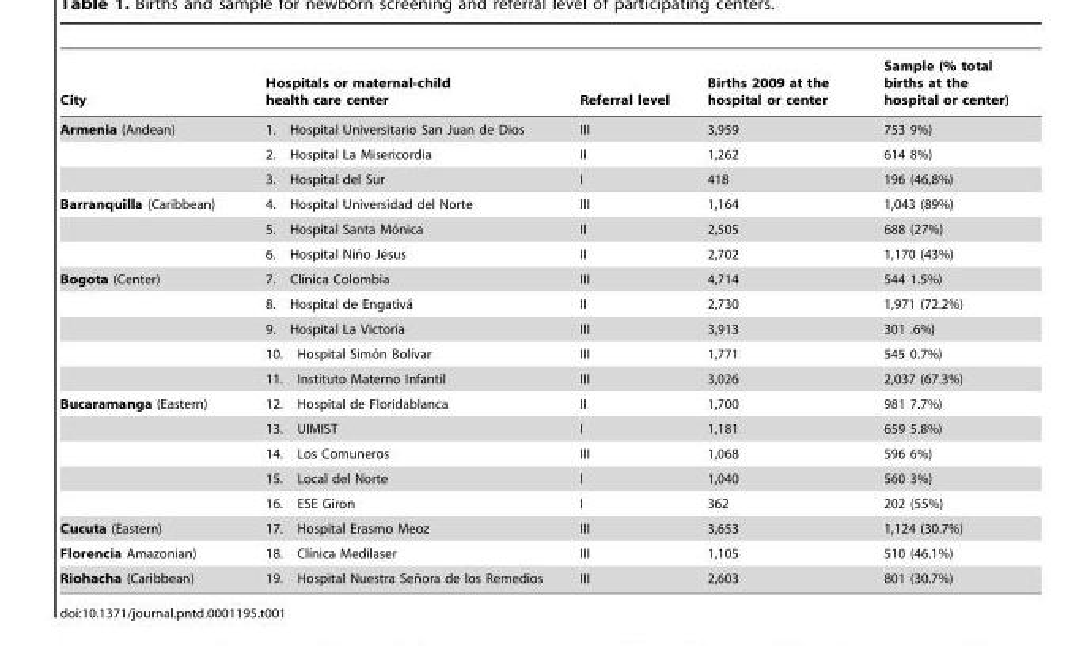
<table><thead><tr><td>City</td><td>Hospitals or maternal-child health care center</td><td>Referral level</td><td>Births 2009 at the hospital or center</td><td>Sample (% total births at the hospital or center)</td></tr></thead><tbody><tr><td rowspan="3">Armenia (Andean)</td><td>1. Hospital Universitario San Juan de Dios</td><td>III</td><td>3,959</td><td>753 9%)</td></tr><tr><td>2. Hospital La Misericordia</td><td>II</td><td>1,262</td><td>614 8%)</td></tr><tr><td>3. Hospital del Sur</td><td>I</td><td>418</td><td>196 (46,8%)</td></tr><tr><td rowspan="3">Barranquilla (Caribbean)</td><td>4. Hospital Universidad del Norte</td><td>III</td><td>1,164</td><td>1,043 (89%)</td></tr><tr><td>5. Hospital Santa Mo´nica</td><td>II</td><td>2,505</td><td>688 (27%)</td></tr><tr><td>6. Hospital Nin˜o Je´sus</td><td>II</td><td>2,702</td><td>1,170 (43%)</td></tr><tr><td rowspan="5">Bogota (Center)</td><td>7. Clı´nica Colombia</td><td>III</td><td>4,714</td><td>544 1.5%)</td></tr><tr><td>8. Hospital de Engativa´</td><td>II</td><td>2,730</td><td>1,971 (72.2%)</td></tr><tr><td>9. Hospital La Victoria</td><td>III</td><td>3,913</td><td>301 .6%)</td></tr><tr><td>10. Hospital Simo´n Bolı´var</td><td>III</td><td>1,771</td><td>545 0.7%)</td></tr><tr><td>11. Instituto Materno Infantil</td><td>III</td><td>3,026</td><td>2,037 (67.3%)</td></tr><tr><td rowspan="5">Bucaramanga (Eastern)</td><td>12. Hospital de Floridablanca</td><td>II</td><td>1,700</td><td>981 7.7%)</td></tr><tr><td>13. UIMIST</td><td>I</td><td>1,181</td><td>659 5.8%)</td></tr><tr><td>14. Los Comuneros</td><td>III</td><td>1,068</td><td>596 6%)</td></tr><tr><td>15. Local del Norte</td><td>I</td><td>1,040</td><td>560 3%)</td></tr><tr><td>16. ESE Giron</td><td>I</td><td>362</td><td>202 (55%)</td></tr><tr><td>Cucuta (Eastern)</td><td>17. Hospital Erasmo Meoz</td><td>III</td><td>3,653</td><td>1,124 (30.7%)</td></tr><tr><td>Florencia Amazonian)</td><td>18. Clı´nica Medilaser</td><td>III</td><td>1,105</td><td>510 (46.1%)</td></tr><tr><td>Riohacha (Caribbean)</td><td>19. Hospital Nuestra Sen˜ora de los Remedios</td><td>III</td><td>2,603</td><td>801 (30.7%)</td></tr></tbody></table>